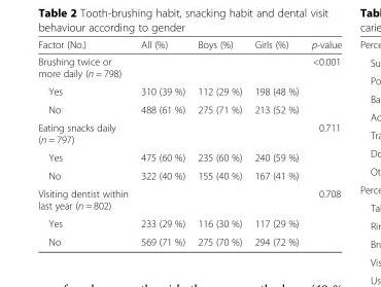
<table><thead><tr><td>Factor (No.)</td><td>All (%)</td><td>Boys (%)</td><td>Girls (%)</td><td>p-value</td></tr></thead><tbody><tr><td>Brushing twice or more daily (n = 798)</td><td></td><td></td><td></td><td>&lt;0.001</td></tr><tr><td>Yes</td><td>310 (39 %)</td><td>112 (29 %)</td><td>198 (48 %)</td><td></td></tr><tr><td>No</td><td>488 (61 %)</td><td>275 (71 %)</td><td>213 (52 %)</td><td></td></tr><tr><td>Eating snacks daily (n = 797)</td><td></td><td></td><td></td><td>0.711</td></tr><tr><td>Yes</td><td>475 (60 %)</td><td>235 (60 %)</td><td>240 (59 %)</td><td></td></tr><tr><td>No</td><td>322 (40 %)</td><td>155 (40 %)</td><td>167 (41 %)</td><td></td></tr><tr><td>Visiting dentist within last year (n = 802)</td><td></td><td></td><td></td><td>0.708</td></tr><tr><td>Yes</td><td>233 (29 %)</td><td>116 (30 %)</td><td>117 (29 %)</td><td></td></tr><tr><td>No</td><td>569 (71 %)</td><td>275 (70 %)</td><td>294 (72 %)</td><td></td></tr></tbody></table>